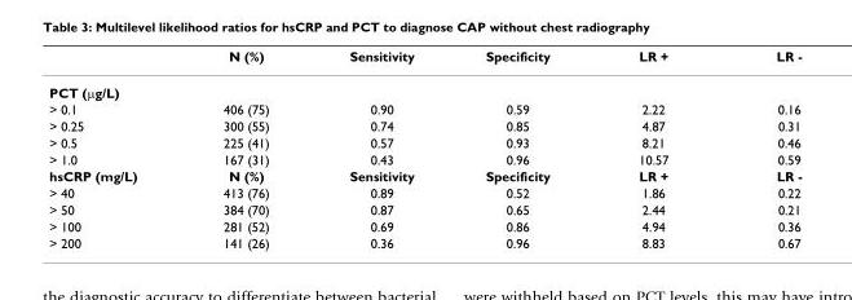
<table><thead><tr><td></td><td>N (%)</td><td>Sensitivity</td><td>Specificity</td><td>LR +</td><td>LR -</td></tr></thead><tbody><tr><td colspan="6">PCT (µg/L)</td></tr><tr><td>&gt; 0.1</td><td>406 (75)</td><td>0.90</td><td>0.59</td><td>2.22</td><td>0.16</td></tr><tr><td>&gt; 0.25</td><td>300 (55)</td><td>0.74</td><td>0.85</td><td>4.87</td><td>0.31</td></tr><tr><td>&gt; 0.5</td><td>225 (41)</td><td>0.57</td><td>0.93</td><td>8.21</td><td>0.46</td></tr><tr><td>&gt; 1.0</td><td>167 (31)</td><td>0.43</td><td>0.96</td><td>10.57</td><td>0.59</td></tr><tr><td>hsCRP (mg/L)</td><td>N (%)</td><td>Sensitivity</td><td>Specificity</td><td>LR +</td><td>LR -</td></tr><tr><td>&gt; 40</td><td>413 (76)</td><td>0.89</td><td>0.52</td><td>1.86</td><td>0.22</td></tr><tr><td>&gt; 50</td><td>384 (70)</td><td>0.87</td><td>0.65</td><td>2.44</td><td>0.21</td></tr><tr><td>&gt; 100</td><td>281 (52)</td><td>0.69</td><td>0.86</td><td>4.94</td><td>0.36</td></tr><tr><td>&gt; 200</td><td>141 (26)</td><td>0.36</td><td>0.96</td><td>8.83</td><td>0.67</td></tr></tbody></table>